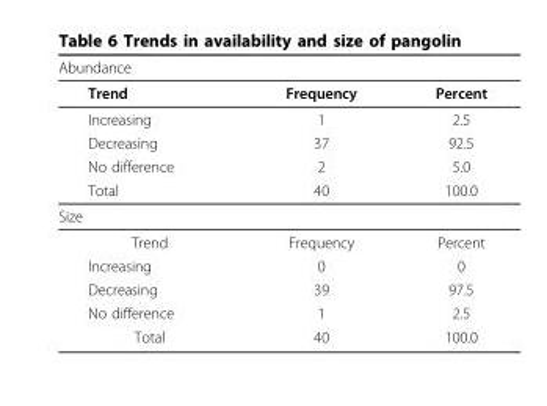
<table><thead><tr><td>Abundance</td><td></td><td></td></tr></thead><tbody><tr><td>Trend</td><td>Frequency</td><td>Percent</td></tr><tr><td>Increasing</td><td>1</td><td>2.5</td></tr><tr><td>Decreasing</td><td>37</td><td>92.5</td></tr><tr><td>No difference</td><td>2</td><td>5.0</td></tr><tr><td>Total</td><td>40</td><td>100.0</td></tr><tr><td colspan="3">Size</td></tr><tr><td>Trend</td><td>Frequency</td><td>Percent</td></tr><tr><td>Increasing</td><td>0</td><td>0</td></tr><tr><td>Decreasing</td><td>39</td><td>97.5</td></tr><tr><td>No difference</td><td>1</td><td>2.5</td></tr><tr><td>Total</td><td>40</td><td>100.0</td></tr></tbody></table>